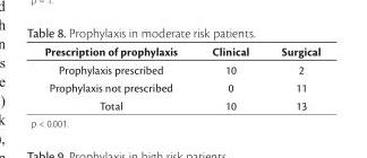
<table><thead><tr><td>Prescription of prophylaxis</td><td>Clinical</td><td>Surgical</td></tr></thead><tbody><tr><td>Prophylaxis prescribed</td><td>10</td><td>2</td></tr><tr><td>Prophylaxis not prescribed</td><td>0</td><td>11</td></tr><tr><td>Total</td><td>10</td><td>13</td></tr></tbody></table>